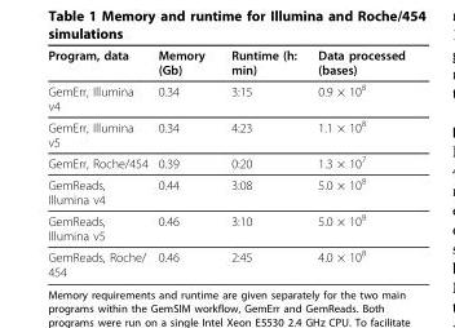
<table><thead><tr><td>Program, data</td><td>Memory (Gb)</td><td>Runtime (h: min)</td><td>Data processed (bases)</td></tr></thead><tbody><tr><td>GemErr, Illumina v4</td><td>0.34</td><td>3:15</td><td>0.9 × 10<sup>8</sup></td></tr><tr><td>GemErr, Illumina v5</td><td>0.34</td><td>4:23</td><td>1.1 × 10<sup>8</sup></td></tr><tr><td>GemErr, Roche/454</td><td>0.39</td><td>0:20</td><td>1.3 × 10<sup>7</sup></td></tr><tr><td>GemReads, Illumina v4</td><td>0.44</td><td>3:08</td><td>5.0 × 10<sup>8</sup></td></tr><tr><td>GemReads, Illumina v5</td><td>0.46</td><td>3:10</td><td>5.0 × 10<sup>8</sup></td></tr><tr><td>GemReads, Roche/ 454</td><td>0.46</td><td>2:45</td><td>4.0 × 10<sup>8</sup></td></tr></tbody></table>